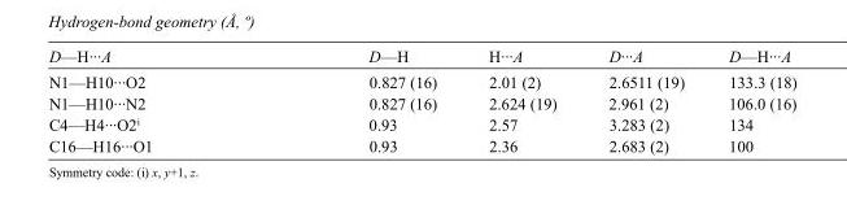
<table><tbody><tr><td>D—H···A</td><td>D—H</td><td>H···A</td><td>D···A</td><td>D—H···A</td></tr><tr><td>N1—H10···O2</td><td>0.827 (16)</td><td>2.01 (2)</td><td>2.6511 (19)</td><td>133.3 (18)</td></tr><tr><td>N1—H10···N2</td><td>0.827 (16)</td><td>2.624 (19)</td><td>2.961 (2)</td><td>106.0 (16)</td></tr><tr><td>C4—H4···O2<sup>i</sup></td><td>0.93</td><td>2.57</td><td>3.283 (2)</td><td>134</td></tr><tr><td>C16—H16···O1</td><td>0.93</td><td>2.36</td><td>2.683 (2)</td><td>100</td></tr></tbody></table>